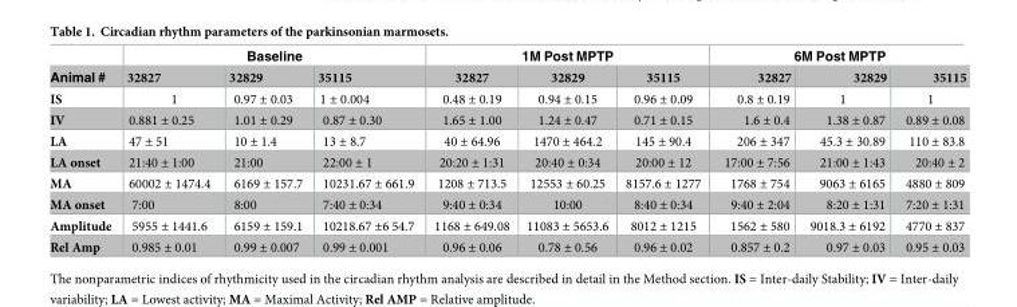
<table><thead><tr><td rowspan="2">Animal #</td><td colspan="3">Baseline</td><td colspan="3">1M Post MPTP</td><td colspan="3">6M Post MPTP</td></tr><tr><td>32827</td><td>32829</td><td>35115</td><td>32827</td><td>32829</td><td>35115</td><td>32827</td><td>32829</td><td>35115</td></tr></thead><tbody><tr><td>IS</td><td>1</td><td>0.97 ± 0.03</td><td>1 ± 0.004</td><td>0.48 ± 0.19</td><td>0.94 ± 0.15</td><td>0.96 ± 0.09</td><td>0.8 ± 0.19</td><td>1</td><td>1</td></tr><tr><td>IV</td><td>0.881 ± 0.25</td><td>1.01 ± 0.29</td><td>0.87 ± 0.30</td><td>1.65 ± 1.00</td><td>1.24 ± 0.47</td><td>0.71 ± 0.15</td><td>1.6 ± 0.4</td><td>1.38 ± 0.87</td><td>0.89 ± 0.08</td></tr><tr><td>LA</td><td>47 ± 51</td><td>10 ± 1.4</td><td>13 ± 8.7</td><td>40 ± 64.96</td><td>1470 ± 464.2</td><td>145 ± 90.4</td><td>206 ± 347</td><td>45.3 ± 30.89</td><td>110 ± 83.8</td></tr><tr><td>LA onset</td><td>21:40 ± 1:00</td><td>21:00</td><td>22:00 ± 1</td><td>20:20 ± 1:31</td><td>20:40 ± 0:34</td><td>20:00 ± 12</td><td>17:00 ± 7:56</td><td>21:00 ± 1:43</td><td>20:40 ± 2</td></tr><tr><td>MA</td><td>60002 ± 1474.4</td><td>6169 ± 157.7</td><td>10231.67 ± 661.9</td><td>1208 ± 713.5</td><td>12553 ± 60.25</td><td>8157.6 ± 1277</td><td>1768 ± 754</td><td>9063 ± 6165</td><td>4880 ± 809</td></tr><tr><td>MA onset</td><td>7:00</td><td>8:00</td><td>7:40 ± 0:34</td><td>9:40 ± 0:34</td><td>10:00</td><td>8:40 ± 0:34</td><td>9:40 ± 2:04</td><td>8:20 ± 1:31</td><td>7:20 ± 1:31</td></tr><tr><td>Amplitude</td><td>5955 ± 1441.6</td><td>6159 ± 159.1</td><td>10218.67 ±6 54.7</td><td>1168 ± 649.08</td><td>11083 ± 5653.6</td><td>8012 ± 1215</td><td>1562 ± 580</td><td>9018.3 ± 6192</td><td>4770 ± 837</td></tr><tr><td>Rel Amp</td><td>0.985 ± 0.01</td><td>0.99 ± 0.007</td><td>0.99 ± 0.001</td><td>0.96 ± 0.06</td><td>0.78 ± 0.56</td><td>0.96 ± 0.02</td><td>0.857 ± 0.2</td><td>0.97 ± 0.03</td><td>0.95 ± 0.03</td></tr></tbody></table>